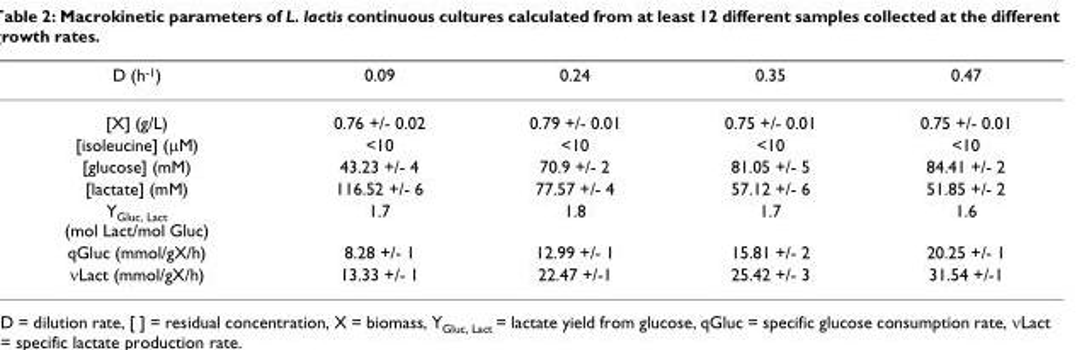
<table><thead><tr><td>D (h<sup>-1</sup>)</td><td>0.09</td><td>0.24</td><td>0.35</td><td>0.47</td></tr></thead><tbody><tr><td>[X] (g/L)</td><td>0.76 +/- 0.02</td><td>0.79 +/- 0.01</td><td>0.75 +/- 0.01</td><td>0.75 +/- 0.01</td></tr><tr><td>[isoleucine] (μM)</td><td>&lt;10</td><td>&lt;10</td><td>&lt;10</td><td>&lt;10</td></tr><tr><td>[glucose] (mM)</td><td>43.23 +/- 4</td><td>70.9 +/- 2</td><td>81.05 +/- 5</td><td>84.41 +/- 2</td></tr><tr><td>[lactate] (mM)</td><td>116.52 +/- 6</td><td>77.57 +/- 4</td><td>57.12 +/- 6</td><td>51.85 +/- 2</td></tr><tr><td>Y<sub>Gluc, Lact</sub> (mol Lact/mol Gluc)</td><td>1.7</td><td>1.8</td><td>1.7</td><td>1.6</td></tr><tr><td>qGluc (mmol/gX/h)</td><td>8.28 +/- 1</td><td>12.99 +/- 1</td><td>15.81 +/- 2</td><td>20.25 +/- 1</td></tr><tr><td>νLact (mmol/gX/h)</td><td>13.33 +/- 1</td><td>22.47 +/-1</td><td>25.42 +/- 3</td><td>31.54 +/-1</td></tr></tbody></table>